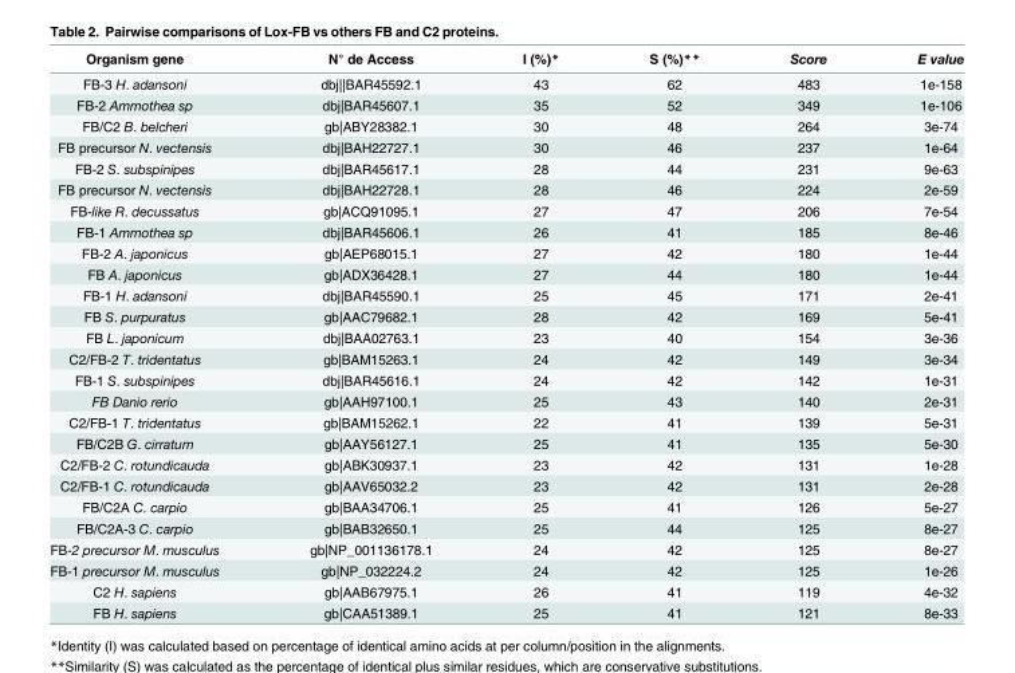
<table><thead><tr><td>Organism gene</td><td>N° de Access</td><td>I (%)*</td><td>S (%)**</td><td>Score</td><td>E value</td></tr></thead><tbody><tr><td>FB-3 H. adansoni</td><td>dbj||BAR45592.1</td><td>43</td><td>62</td><td>483</td><td>1e-158</td></tr><tr><td>FB-2 Ammothea sp</td><td>dbj|BAR45607.1</td><td>35</td><td>52</td><td>349</td><td>1e-106</td></tr><tr><td>FB/C2 B. belcheri</td><td>gb|ABY28382.1</td><td>30</td><td>48</td><td>264</td><td>3e-74</td></tr><tr><td>FB precursor N. vectensis</td><td>dbj|BAH22727.1</td><td>30</td><td>46</td><td>237</td><td>1e-64</td></tr><tr><td>FB-2 S. subspinipes</td><td>dbj|BAR45617.1</td><td>28</td><td>44</td><td>231</td><td>9e-63</td></tr><tr><td>FB precursor N. vectensis</td><td>dbj|BAH22728.1</td><td>28</td><td>46</td><td>224</td><td>2e-59</td></tr><tr><td>FB-like R. decussatus</td><td>gb|ACQ91095.1</td><td>27</td><td>47</td><td>206</td><td>7e-54</td></tr><tr><td>FB-1 Ammothea sp</td><td>dbj|BAR45606.1</td><td>26</td><td>41</td><td>185</td><td>8e-46</td></tr><tr><td>FB-2 A. japonicus</td><td>gb|AEP68015.1</td><td>27</td><td>42</td><td>180</td><td>1e-44</td></tr><tr><td>FB A. japonicus</td><td>gb|ADX36428.1</td><td>27</td><td>44</td><td>180</td><td>1e-44</td></tr><tr><td>FB-1 H. adansoni</td><td>dbj|BAR45590.1</td><td>25</td><td>45</td><td>171</td><td>2e-41</td></tr><tr><td>FB S. purpuratus</td><td>gb|AAC79682.1</td><td>28</td><td>42</td><td>169</td><td>5e-41</td></tr><tr><td>FB L. japonicum</td><td>dbj|BAA02763.1</td><td>23</td><td>40</td><td>154</td><td>3e-36</td></tr><tr><td>C2/FB-2 T. tridentatus</td><td>gb|BAM15263.1</td><td>24</td><td>42</td><td>149</td><td>3e-34</td></tr><tr><td>FB-1 S. subspinipes</td><td>dbj|BAR45616.1</td><td>24</td><td>42</td><td>142</td><td>1e-31</td></tr><tr><td>FB Danio rerio</td><td>gb|AAH97100.1</td><td>25</td><td>43</td><td>140</td><td>2e-31</td></tr><tr><td>C2/FB-1 T. tridentatus</td><td>gb|BAM15262.1</td><td>22</td><td>41</td><td>139</td><td>5e-31</td></tr><tr><td>FB/C2B G. cirratum</td><td>gb|AAY56127.1</td><td>25</td><td>41</td><td>135</td><td>5e-30</td></tr><tr><td>C2/FB-2 C. rotundicauda</td><td>gb|ABK30937.1</td><td>23</td><td>42</td><td>131</td><td>1e-28</td></tr><tr><td>C2/FB-1 C. rotundicauda</td><td>gb|AAV65032.2</td><td>23</td><td>42</td><td>131</td><td>2e-28</td></tr><tr><td>FB/C2A C. carpio</td><td>gb|BAA34706.1</td><td>25</td><td>41</td><td>126</td><td>5e-27</td></tr><tr><td>FB/C2A-3 C. carpio</td><td>gb|BAB32650.1</td><td>25</td><td>44</td><td>125</td><td>8e-27</td></tr><tr><td>FB-2 precursor M. musculus</td><td>gb|NP_001136178.1</td><td>24</td><td>42</td><td>125</td><td>8e-27</td></tr><tr><td>FB-1 precursor M. musculus</td><td>gb|NP_032224.2</td><td>24</td><td>42</td><td>125</td><td>1e-26</td></tr><tr><td>C2 H. sapiens</td><td>gb|AAB67975.1</td><td>26</td><td>41</td><td>119</td><td>4e-32</td></tr><tr><td>FB H. sapiens</td><td>gb|CAA51389.1</td><td>25</td><td>41</td><td>121</td><td>8e-33</td></tr></tbody></table>